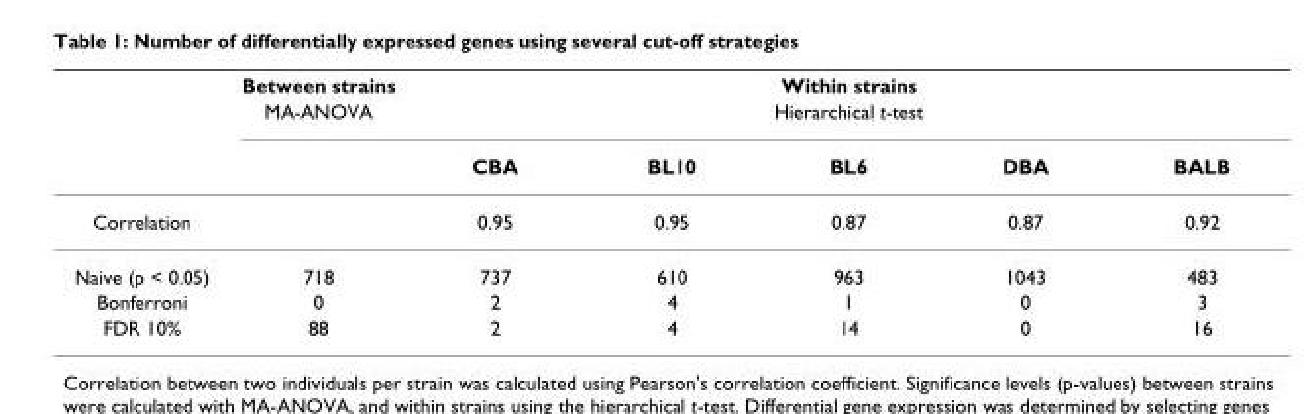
<table><thead><tr><td rowspan="3"></td><td rowspan="3">Between strains MA-ANOVA</td><td rowspan="2" colspan="5">Within strains Hierarchical t-test</td></tr><tr></tr><tr><td>CBA</td><td>BL10</td><td>BL6</td><td>DBA</td><td>BALB</td></tr></thead><tbody><tr><td>Correlation</td><td></td><td>0.95</td><td>0.95</td><td>0.87</td><td>0.87</td><td>0.92</td></tr><tr><td>Naive (p &lt; 0.05)</td><td>718</td><td>737</td><td>610</td><td>963</td><td>1043</td><td>483</td></tr><tr><td>Bonferroni</td><td>0</td><td>2</td><td>4</td><td>1</td><td>0</td><td>3</td></tr><tr><td>FDR 10%</td><td>88</td><td>2</td><td>4</td><td>14</td><td>0</td><td>16</td></tr></tbody></table>